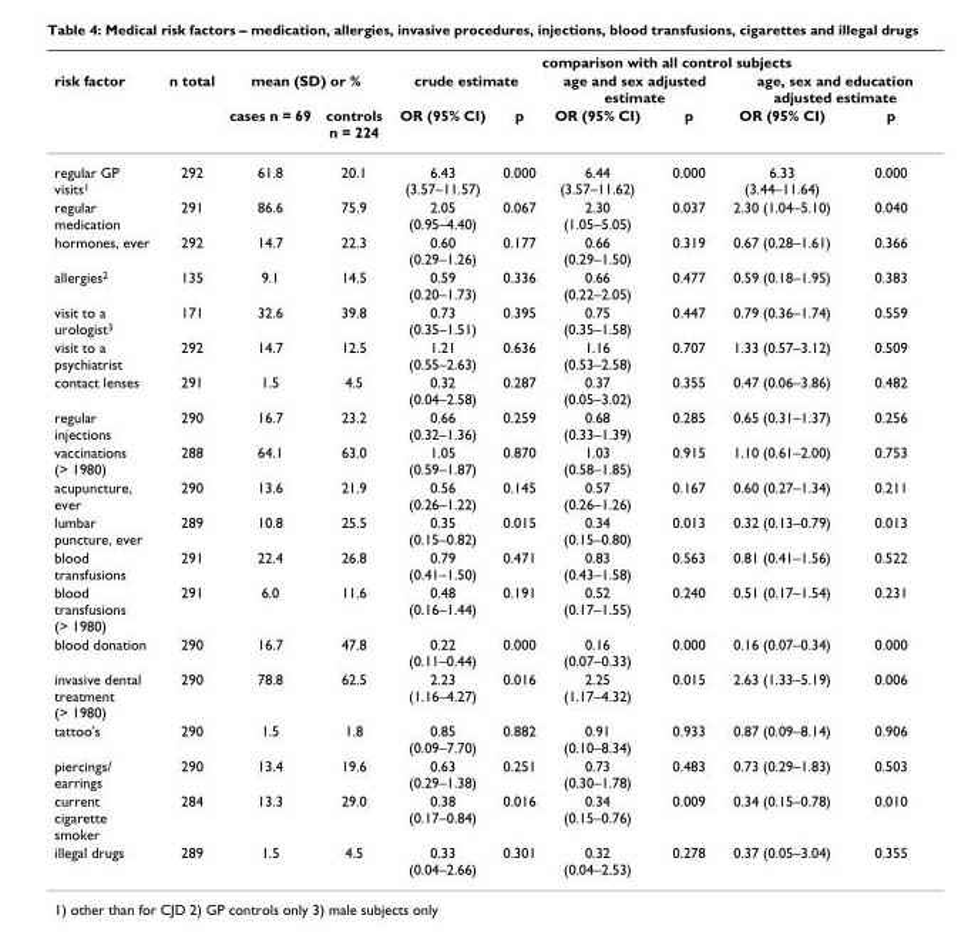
<table><thead><tr><td rowspan="3">risk factor</td><td rowspan="3">n total</td><td></td><td></td><td colspan="6">comparison with all control subjects</td></tr><tr><td colspan="2">mean (SD) or %</td><td colspan="2">crude estimate</td><td colspan="2">age and sex adjusted estimate</td><td colspan="2">age, sex and education adjusted estimate</td></tr><tr><td>cases n = 69</td><td>controls n = 224</td><td>OR (95% CI)</td><td>p</td><td>OR (95% CI)</td><td>p</td><td>OR (95% CI)</td><td>p</td></tr></thead><tbody><tr><td>regular GP visits<sup>1</sup></td><td>292</td><td>61.8</td><td>20.1</td><td>6.43 (3.57–11.57)</td><td>0.000</td><td>6.44 (3.57–11.62)</td><td>0.000</td><td>6.33 (3.44–11.64)</td><td>0.000</td></tr><tr><td>regular medication</td><td>291</td><td>86.6</td><td>75.9</td><td>2.05 (0.95–4.40)</td><td>0.067</td><td>2.30 (1.05–5.05)</td><td>0.037</td><td>2.30 (1.04–5.10)</td><td>0.040</td></tr><tr><td>hormones, ever</td><td>292</td><td>14.7</td><td>22.3</td><td>0.60 (0.29–1.26)</td><td>0.177</td><td>0.66 (0.29–1.50)</td><td>0.319</td><td>0.67 (0.28–1.61)</td><td>0.366</td></tr><tr><td>allergies<sup>2</sup></td><td>135</td><td>9.1</td><td>14.5</td><td>0.59 (0.20–1.73)</td><td>0.336</td><td>0.66 (0.22–2.05)</td><td>0.477</td><td>0.59 (0.18–1.95)</td><td>0.383</td></tr><tr><td>visit to a urologist<sup>3</sup></td><td>171</td><td>32.6</td><td>39.8</td><td>0.73 (0.35–1.51)</td><td>0.395</td><td>0.75 (0.35–1.58)</td><td>0.447</td><td>0.79 (0.36–1.74)</td><td>0.559</td></tr><tr><td>visit to a psychiatrist</td><td>292</td><td>14.7</td><td>12.5</td><td>1.21 (0.55–2.63)</td><td>0.636</td><td>1.16 (0.53–2.58)</td><td>0.707</td><td>1.33 (0.57–3.12)</td><td>0.509</td></tr><tr><td>contact lenses</td><td>291</td><td>1.5</td><td>4.5</td><td>0.32 (0.04–2.58)</td><td>0.287</td><td>0.37 (0.05–3.02)</td><td>0.355</td><td>0.47 (0.06–3.86)</td><td>0.482</td></tr><tr><td>regular injections</td><td>290</td><td>16.7</td><td>23.2</td><td>0.66 (0.32–1.36)</td><td>0.259</td><td>0.68 (0.33–1.39)</td><td>0.285</td><td>0.65 (0.31–1.37)</td><td>0.256</td></tr><tr><td>vaccinations (&gt; 1980)</td><td>288</td><td>64.1</td><td>63.0</td><td>1.05 (0.59–1.87)</td><td>0.870</td><td>1.03 (0.58–1.85)</td><td>0.915</td><td>1.10 (0.61–2.00)</td><td>0.753</td></tr><tr><td>acupuncture, ever</td><td>290</td><td>13.6</td><td>21.9</td><td>0.56 (0.26–1.22)</td><td>0.145</td><td>0.57 (0.26–1.26)</td><td>0.167</td><td>0.60 (0.27–1.34)</td><td>0.211</td></tr><tr><td>lumbar puncture, ever</td><td>289</td><td>10.8</td><td>25.5</td><td>0.35 (0.15–0.82)</td><td>0.015</td><td>0.34 (0.15–0.80)</td><td>0.013</td><td>0.32 (0.13–0.79)</td><td>0.013</td></tr><tr><td>blood transfusions</td><td>291</td><td>22.4</td><td>26.8</td><td>0.79 (0.41–1.50)</td><td>0.471</td><td>0.83 (0.43–1.58)</td><td>0.563</td><td>0.81 (0.41–1.56)</td><td>0.522</td></tr><tr><td>blood transfusions (&gt; 1980)</td><td>291</td><td>6.0</td><td>11.6</td><td>0.48 (0.16–1.44)</td><td>0.191</td><td>0.52 (0.17–1.55)</td><td>0.240</td><td>0.51 (0.17–1.54)</td><td>0.231</td></tr><tr><td>blood donation</td><td>290</td><td>16.7</td><td>47.8</td><td>0.22 (0.11–0.44)</td><td>0.000</td><td>0.16 (0.07–0.33)</td><td>0.000</td><td>0.16 (0.07–0.34)</td><td>0.000</td></tr><tr><td>invasive dental treatment (&gt; 1980)</td><td>290</td><td>78.8</td><td>62.5</td><td>2.23 (1.16–4.27)</td><td>0.016</td><td>2.25 (1.17–4.32)</td><td>0.015</td><td>2.63 (1.33–5.19)</td><td>0.006</td></tr><tr><td>tattoo&#x27;s</td><td>290</td><td>1.5</td><td>1.8</td><td>0.85 (0.09–7.70)</td><td>0.882</td><td>0.91 (0.10–8.34)</td><td>0.933</td><td>0.87 (0.09–8.14)</td><td>0.906</td></tr><tr><td>piercings/ earrings</td><td>290</td><td>13.4</td><td>19.6</td><td>0.63 (0.29–1.38)</td><td>0.251</td><td>0.73 (0.30–1.78)</td><td>0.483</td><td>0.73 (0.29–1.83)</td><td>0.503</td></tr><tr><td>current cigarette smoker</td><td>284</td><td>13.3</td><td>29.0</td><td>0.38 (0.17–0.84)</td><td>0.016</td><td>0.34 (0.15–0.76)</td><td>0.009</td><td>0.34 (0.15–0.78)</td><td>0.010</td></tr><tr><td>illegal drugs</td><td>289</td><td>1.5</td><td>4.5</td><td>0.33 (0.04–2.66)</td><td>0.301</td><td>0.32 (0.04–2.53)</td><td>0.278</td><td>0.37 (0.05–3.04)</td><td>0.355</td></tr></tbody></table>